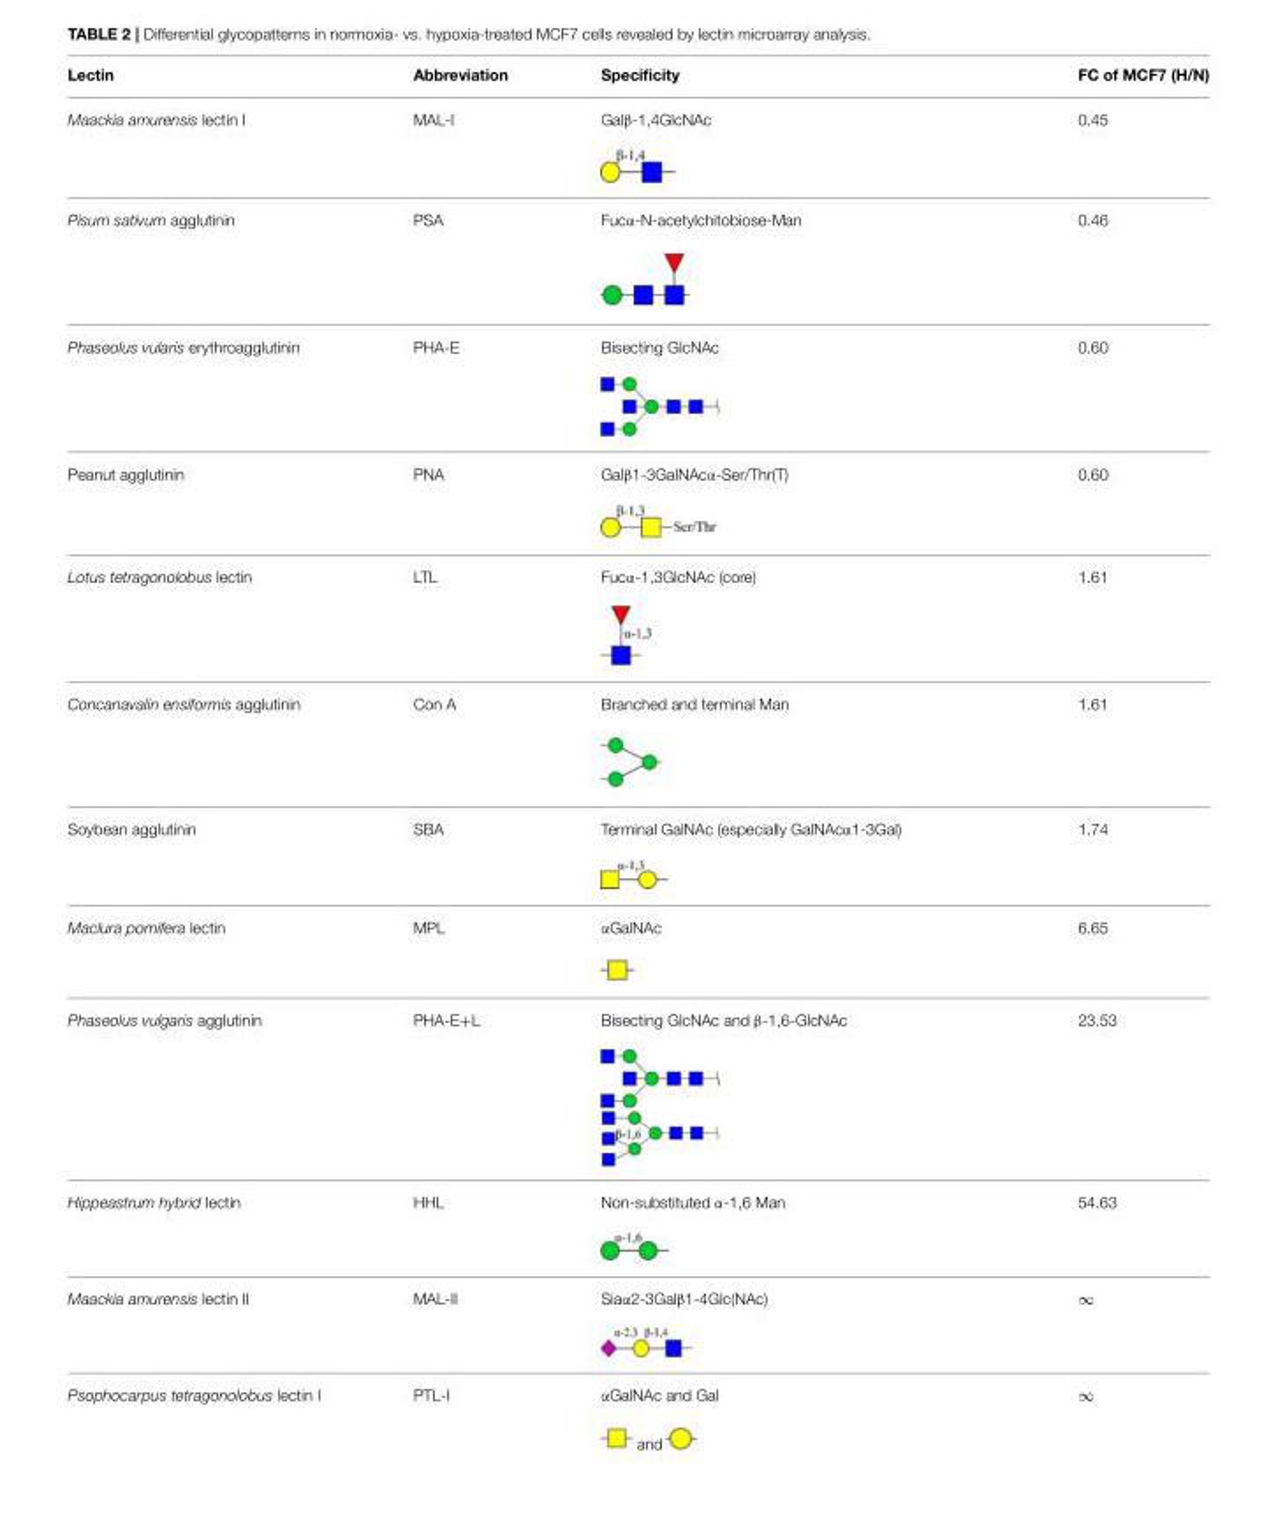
<table><thead><tr><td>Lectin</td><td>Abbreviation</td><td>Specificity</td><td>FC of MCF7 (H/N)</td></tr></thead><tbody><tr><td>Maackia amurensis lectin I</td><td>MAL-I</td><td>Galβ-1,4GlcNAc</td><td>0.45</td></tr><tr><td>Pisum sativum agglutinin</td><td>PSA</td><td>Fucα-N-acetylchitobiose-Man</td><td>0.46</td></tr><tr><td>Phaseolus vularis erythroagglutinin</td><td>PHA-E</td><td>Bisecting GlcNAc</td><td>0.60</td></tr><tr><td>Peanut agglutinin</td><td>PNA</td><td>Galβ1-3GalNAcα-Ser/Thr(T)</td><td>0.60</td></tr><tr><td>Lotus tetragonolobus lectin</td><td>LTL</td><td>Fucα-1,3GlcNAc (core)</td><td>1.61</td></tr><tr><td>Concanavalin ensiformis agglutinin</td><td>Con A</td><td>Branched and terminal Man</td><td>1.61</td></tr><tr><td>Soybean agglutinin</td><td>SBA</td><td>Terminal GalNAc (especially GalNAcα1-3Gal)</td><td>1.74</td></tr><tr><td>Maclura pomifera lectin</td><td>MPL</td><td>αGalNAc</td><td>6.65</td></tr><tr><td>Phaseolus vulgaris agglutinin</td><td>PHA-E+L</td><td>Bisecting GlcNAc and β-1,6-GlcNAc</td><td>23.53</td></tr><tr><td>Hippeastrum hybrid lectin</td><td>HHL</td><td>Non-substituted α-1,6 Man</td><td>54.63</td></tr><tr><td>Maackia amurensis lectin II</td><td>MAL-II</td><td>Siaα2-3Galβ1-4Glc(NAc)</td><td>∞</td></tr><tr><td>Psophocarpus tetragonolobus lectin I</td><td>PTL-I</td><td>αGalNAc and Gal and</td><td>∞</td></tr></tbody></table>